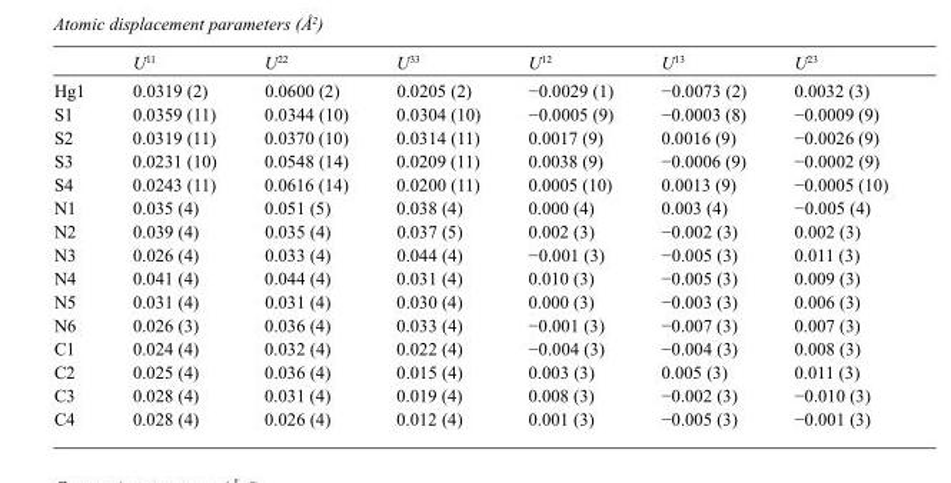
<table><thead><tr><td></td><td>U<sup>11</sup></td><td>U<sup>22</sup></td><td>U<sup>33</sup></td><td>U<sup>12</sup></td><td>U<sup>13</sup></td><td>U<sup>23</sup></td></tr></thead><tbody><tr><td>Hg1</td><td>0.0319 (2)</td><td>0.0600 (2)</td><td>0.0205 (2)</td><td>−0.0029 (1)</td><td>−0.0073 (2)</td><td>0.0032 (3)</td></tr><tr><td>S1</td><td>0.0359 (11)</td><td>0.0344 (10)</td><td>0.0304 (10)</td><td>−0.0005 (9)</td><td>−0.0003 (8)</td><td>−0.0009 (9)</td></tr><tr><td>S2</td><td>0.0319 (11)</td><td>0.0370 (10)</td><td>0.0314 (11)</td><td>0.0017 (9)</td><td>0.0016 (9)</td><td>−0.0026 (9)</td></tr><tr><td>S3</td><td>0.0231 (10)</td><td>0.0548 (14)</td><td>0.0209 (11)</td><td>0.0038 (9)</td><td>−0.0006 (9)</td><td>−0.0002 (9)</td></tr><tr><td>S4</td><td>0.0243 (11)</td><td>0.0616 (14)</td><td>0.0200 (11)</td><td>0.0005 (10)</td><td>0.0013 (9)</td><td>−0.0005 (10)</td></tr><tr><td>N1</td><td>0.035 (4)</td><td>0.051 (5)</td><td>0.038 (4)</td><td>0.000 (4)</td><td>0.003 (4)</td><td>−0.005 (4)</td></tr><tr><td>N2</td><td>0.039 (4)</td><td>0.035 (4)</td><td>0.037 (5)</td><td>0.002 (3)</td><td>−0.002 (3)</td><td>0.002 (3)</td></tr><tr><td>N3</td><td>0.026 (4)</td><td>0.033 (4)</td><td>0.044 (4)</td><td>−0.001 (3)</td><td>−0.005 (3)</td><td>0.011 (3)</td></tr><tr><td>N4</td><td>0.041 (4)</td><td>0.044 (4)</td><td>0.031 (4)</td><td>0.010 (3)</td><td>−0.005 (3)</td><td>0.009 (3)</td></tr><tr><td>N5</td><td>0.031 (4)</td><td>0.031 (4)</td><td>0.030 (4)</td><td>0.000 (3)</td><td>−0.003 (3)</td><td>0.006 (3)</td></tr><tr><td>N6</td><td>0.026 (3)</td><td>0.036 (4)</td><td>0.033 (4)</td><td>−0.001 (3)</td><td>−0.007 (3)</td><td>0.007 (3)</td></tr><tr><td>C1</td><td>0.024 (4)</td><td>0.032 (4)</td><td>0.022 (4)</td><td>−0.004 (3)</td><td>−0.004 (3)</td><td>0.008 (3)</td></tr><tr><td>C2</td><td>0.025 (4)</td><td>0.036 (4)</td><td>0.015 (4)</td><td>0.003 (3)</td><td>0.005 (3)</td><td>0.011 (3)</td></tr><tr><td>C3</td><td>0.028 (4)</td><td>0.031 (4)</td><td>0.019 (4)</td><td>0.008 (3)</td><td>−0.002 (3)</td><td>−0.010 (3)</td></tr><tr><td>C4</td><td>0.028 (4)</td><td>0.026 (4)</td><td>0.012 (4)</td><td>0.001 (3)</td><td>−0.005 (3)</td><td>−0.001 (3)</td></tr></tbody></table>